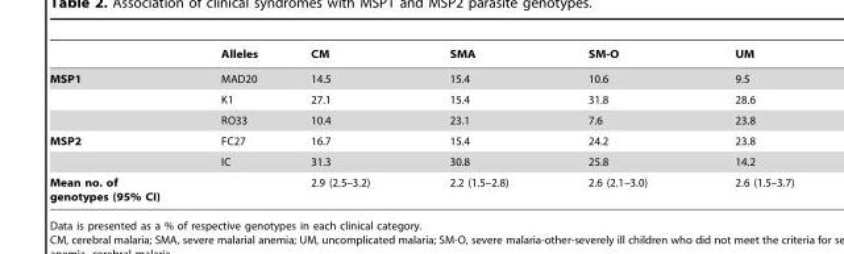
<table><thead><tr><td></td><td>Alleles</td><td>CM</td><td>SMA</td><td>SM-O</td><td>UM</td></tr></thead><tbody><tr><td rowspan="3">MSP1</td><td>MAD20</td><td>14.5</td><td>15.4</td><td>10.6</td><td>9.5</td></tr><tr><td>K1</td><td>27.1</td><td>15.4</td><td>31.8</td><td>28.6</td></tr><tr><td>RO33</td><td>10.4</td><td>23.1</td><td>7.6</td><td>23.8</td></tr><tr><td rowspan="2">MSP2</td><td>FC27</td><td>16.7</td><td>15.4</td><td>24.2</td><td>23.8</td></tr><tr><td>IC</td><td>31.3</td><td>30.8</td><td>25.8</td><td>14.2</td></tr><tr><td>Mean no. of genotypes (95% CI)</td><td></td><td>2.9 (2.5–3.2)</td><td>2.2 (1.5–2.8)</td><td>2.6 (2.1–3.0)</td><td>2.6 (1.5–3.7)</td></tr></tbody></table>